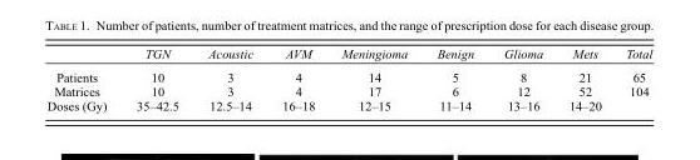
<table><thead><tr><td></td><td>TGN</td><td>Acoustic</td><td>AVM</td><td>Meningioma</td><td>Benign</td><td>Glioma</td><td>Mets</td><td>Total</td></tr></thead><tbody><tr><td>Patients</td><td>10</td><td>3</td><td>4</td><td>14</td><td>5</td><td>8</td><td>21</td><td>65</td></tr><tr><td>Matrices</td><td>10</td><td>3</td><td>4</td><td>17</td><td>6</td><td>12</td><td>52</td><td>104</td></tr><tr><td>Doses (Gy)</td><td>35–42.5</td><td>12.5–14</td><td>16–18</td><td>12–15</td><td>11–14</td><td>13–16</td><td>14–20</td><td></td></tr></tbody></table>